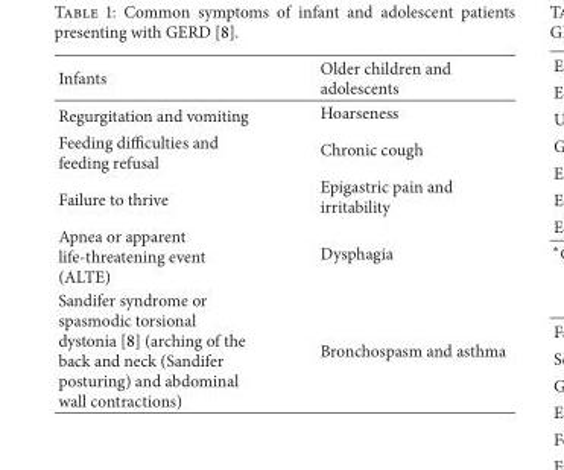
<table><thead><tr><td>Infants</td><td>Older children and adolescents</td></tr></thead><tbody><tr><td>Regurgitation and vomiting</td><td>Hoarseness</td></tr><tr><td>Feeding difficulties and feeding refusal</td><td>Chronic cough</td></tr><tr><td>Failure to thrive</td><td>Epigastric pain and irritability</td></tr><tr><td>Apnea or apparent life-threatening event (ALTE)</td><td>Dysphagia</td></tr><tr><td>Sandifer syndrome or spasmodic torsional dystonia [8] (arching of the back and neck (Sandifer posturing) and abdominal wall contractions)</td><td>Bronchospasm and asthma</td></tr></tbody></table>